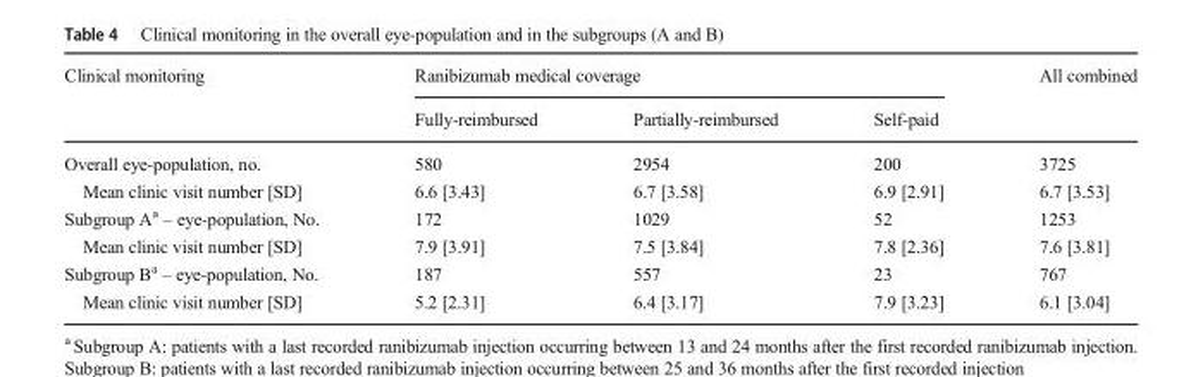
<table><thead><tr><td rowspan="2">Clinical monitoring</td><td colspan="3">Ranibizumab medical coverage</td><td rowspan="2">All combined</td></tr><tr><td>Fully-reimbursed</td><td>Partially-reimbursed</td><td>Self-paid</td></tr></thead><tbody><tr><td>Overall eye-population, no.</td><td>580</td><td>2954</td><td>200</td><td>3725</td></tr><tr><td>Mean clinic visit number [SD]</td><td>6.6 [3.43]</td><td>6.7 [3.58]</td><td>6.9 [2.91]</td><td>6.7 [3.53]</td></tr><tr><td>Subgroup A<sup>a</sup> – eye-population, No.</td><td>172</td><td>1029</td><td>52</td><td>1253</td></tr><tr><td>Mean clinic visit number [SD]</td><td>7.9 [3.91]</td><td>7.5 [3.84]</td><td>7.8 [2.36]</td><td>7.6 [3.81]</td></tr><tr><td>Subgroup B<sup>a</sup> – eye-population, No.</td><td>187</td><td>557</td><td>23</td><td>767</td></tr><tr><td>Mean clinic visit number [SD]</td><td>5.2 [2.31]</td><td>6.4 [3.17]</td><td>7.9 [3.23]</td><td>6.1 [3.04]</td></tr></tbody></table>